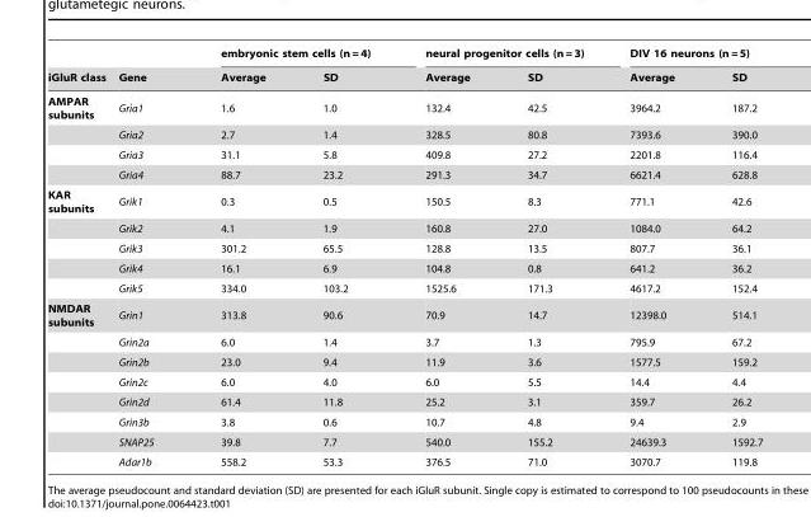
<table><thead><tr><td rowspan="2">iGluR class</td><td rowspan="2">Gene</td><td colspan="2">embryonic stem cells (n = 4)</td><td colspan="2">neural progenitor cells (n = 3)</td><td colspan="2">DIV 16 neurons (n = 5)</td></tr><tr><td>Average</td><td>SD</td><td>Average</td><td>SD</td><td>Average</td><td>SD</td></tr></thead><tbody><tr><td rowspan="4">AMPAR subunits</td><td>Gria1</td><td>1.6</td><td>1.0</td><td>132.4</td><td>42.5</td><td>3964.2</td><td>187.2</td></tr><tr><td>Gria2</td><td>2.7</td><td>1.4</td><td>328.5</td><td>80.8</td><td>7393.6</td><td>390.0</td></tr><tr><td>Gria3</td><td>31.1</td><td>5.8</td><td>409.8</td><td>27.2</td><td>2201.8</td><td>116.4</td></tr><tr><td>Gria4</td><td>88.7</td><td>23.2</td><td>291.3</td><td>34.7</td><td>6621.4</td><td>628.8</td></tr><tr><td rowspan="5">KAR subunits</td><td>Grik1</td><td>0.3</td><td>0.5</td><td>150.5</td><td>8.3</td><td>771.1</td><td>42.6</td></tr><tr><td>Grik2</td><td>4.1</td><td>1.9</td><td>160.8</td><td>27.0</td><td>1084.0</td><td>64.2</td></tr><tr><td>Grik3</td><td>301.2</td><td>65.5</td><td>128.8</td><td>13.5</td><td>807.7</td><td>36.1</td></tr><tr><td>Grik4</td><td>16.1</td><td>6.9</td><td>104.8</td><td>0.8</td><td>641.2</td><td>36.2</td></tr><tr><td>Grik5</td><td>334.0</td><td>103.2</td><td>1525.6</td><td>171.3</td><td>4617.2</td><td>152.4</td></tr><tr><td rowspan="8">NMDAR subunits</td><td>Grin1</td><td>313.8</td><td>90.6</td><td>70.9</td><td>14.7</td><td>12398.0</td><td>514.1</td></tr><tr><td>Grin2a</td><td>6.0</td><td>1.4</td><td>3.7</td><td>1.3</td><td>795.9</td><td>67.2</td></tr><tr><td>Grin2b</td><td>23.0</td><td>9.4</td><td>11.9</td><td>3.6</td><td>1577.5</td><td>159.2</td></tr><tr><td>Grin2c</td><td>6.0</td><td>4.0</td><td>6.0</td><td>5.5</td><td>14.4</td><td>4.4</td></tr><tr><td>Grin2d</td><td>61.4</td><td>11.8</td><td>25.2</td><td>3.1</td><td>359.7</td><td>26.2</td></tr><tr><td>Grin3b</td><td>3.8</td><td>0.6</td><td>10.7</td><td>4.8</td><td>9.4</td><td>2.9</td></tr><tr><td>SNAP25</td><td>39.8</td><td>7.7</td><td>540.0</td><td>155.2</td><td>24639.3</td><td>1592.7</td></tr><tr><td>Adar1b</td><td>558.2</td><td>53.3</td><td>376.5</td><td>71.0</td><td>3070.7</td><td>119.8</td></tr></tbody></table>